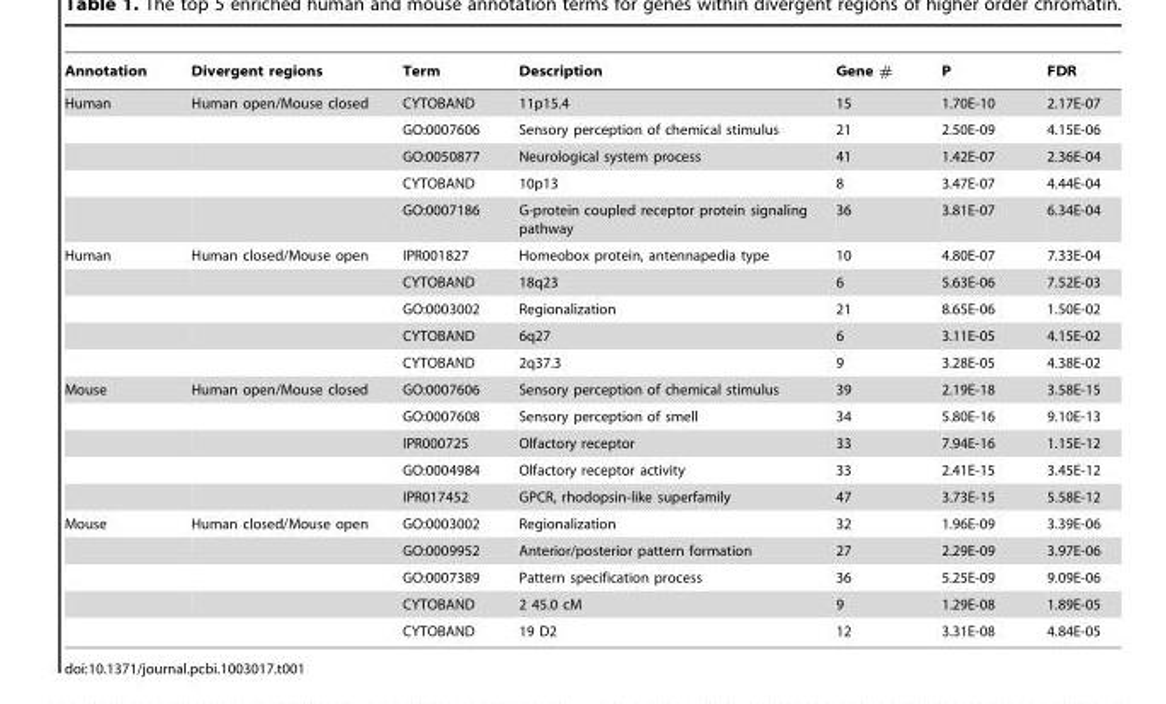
<table><thead><tr><td>Annotation</td><td>Divergent regions</td><td>Term</td><td>Description</td><td>Gene #</td><td>P</td><td>FDR</td></tr></thead><tbody><tr><td rowspan="5">Human</td><td>Human open/Mouse closed</td><td>CYTOBAND</td><td>11p15.4</td><td>15</td><td>1.70E-10</td><td>2.17E-07</td></tr><tr><td></td><td>GO:0007606</td><td>Sensory perception of chemical stimulus</td><td>21</td><td>2.50E-09</td><td>4.15E-06</td></tr><tr><td></td><td>GO:0050877</td><td>Neurological system process</td><td>41</td><td>1.42E-07</td><td>2.36E-04</td></tr><tr><td></td><td>CYTOBAND</td><td>10p13</td><td>8</td><td>3.47E-07</td><td>4.44E-04</td></tr><tr><td></td><td>GO:0007186</td><td>G-protein coupled receptor protein signaling pathway</td><td>36</td><td>3.81E-07</td><td>6.34E-04</td></tr><tr><td rowspan="5">Human</td><td>Human closed/Mouse open</td><td>IPR001827</td><td>Homeobox protein, antennapedia type</td><td>10</td><td>4.80E-07</td><td>7.33E-04</td></tr><tr><td></td><td>CYTOBAND</td><td>18q23</td><td>6</td><td>5.63E-06</td><td>7.52E-03</td></tr><tr><td></td><td>GO:0003002</td><td>Regionalization</td><td>21</td><td>8.65E-06</td><td>1.50E-02</td></tr><tr><td></td><td>CYTOBAND</td><td>6q27</td><td>6</td><td>3.11E-05</td><td>4.15E-02</td></tr><tr><td></td><td>CYTOBAND</td><td>2q37.3</td><td>9</td><td>3.28E-05</td><td>4.38E-02</td></tr><tr><td rowspan="5">Mouse</td><td>Human open/Mouse closed</td><td>GO:0007606</td><td>Sensory perception of chemical stimulus</td><td>39</td><td>2.19E-18</td><td>3.58E-15</td></tr><tr><td></td><td>GO:0007608</td><td>Sensory perception of smell</td><td>34</td><td>5.80E-16</td><td>9.10E-13</td></tr><tr><td></td><td>IPR000725</td><td>Olfactory receptor</td><td>33</td><td>7.94E-16</td><td>1.15E-12</td></tr><tr><td></td><td>GO:0004984</td><td>Olfactory receptor activity</td><td>33</td><td>2.41E-15</td><td>3.45E-12</td></tr><tr><td></td><td>IPR017452</td><td>GPCR, rhodopsin-like superfamily</td><td>47</td><td>3.73E-15</td><td>5.58E-12</td></tr><tr><td rowspan="5">Mouse</td><td>Human closed/Mouse open</td><td>GO:0003002</td><td>Regionalization</td><td>32</td><td>1.96E-09</td><td>3.39E-06</td></tr><tr><td></td><td>GO:0009952</td><td>Anterior/posterior pattern formation</td><td>27</td><td>2.29E-09</td><td>3.97E-06</td></tr><tr><td></td><td>GO:0007389</td><td>Pattern specification process</td><td>36</td><td>5.25E-09</td><td>9.09E-06</td></tr><tr><td></td><td>CYTOBAND</td><td>2 45.0 cM</td><td>9</td><td>1.29E-08</td><td>1.89E-05</td></tr><tr><td></td><td>CYTOBAND</td><td>19 D2</td><td>12</td><td>3.31E-08</td><td>4.84E-05</td></tr></tbody></table>